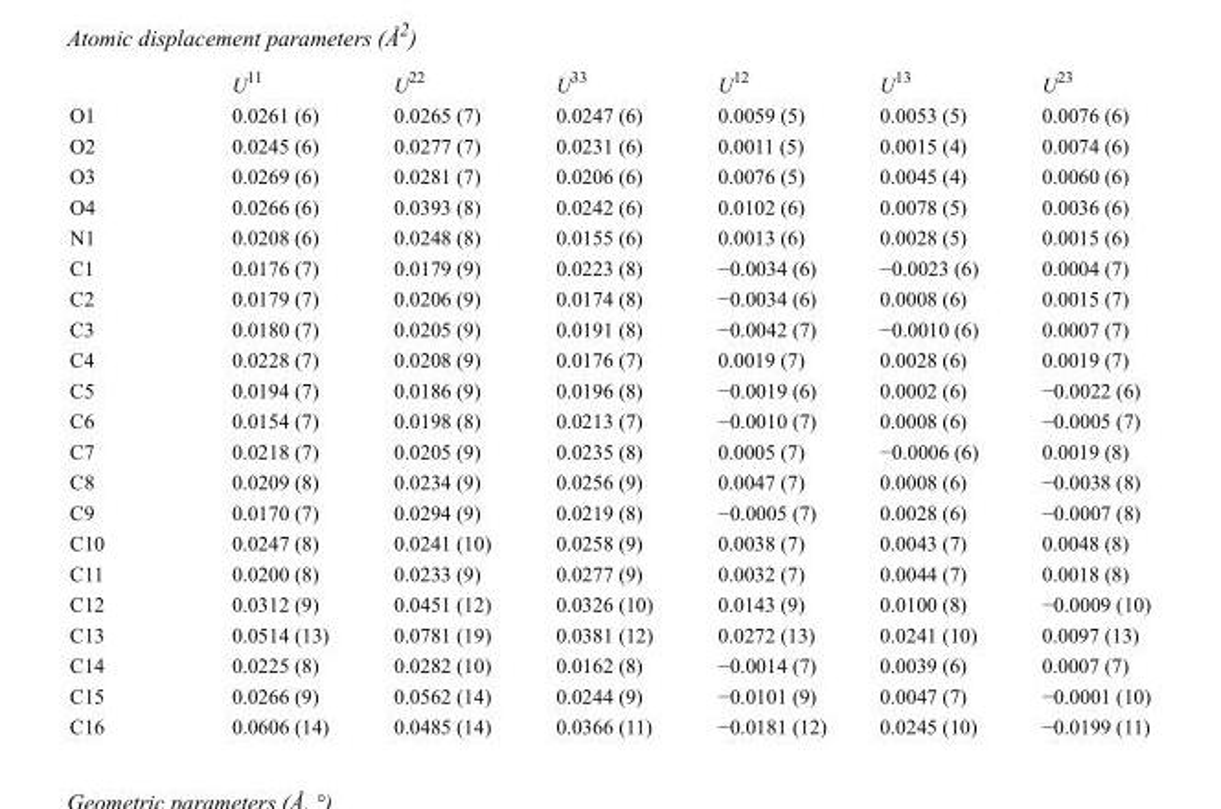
<table><thead><tr><td></td><td>U<sup>11</sup></td><td>U<sup>22</sup></td><td>U<sup>33</sup></td><td>U<sup>12</sup></td><td>U<sup>13</sup></td><td>U<sup>23</sup></td></tr></thead><tbody><tr><td>O1</td><td>0.0261 (6)</td><td>0.0265 (7)</td><td>0.0247 (6)</td><td>0.0059 (5)</td><td>0.0053 (5)</td><td>0.0076 (6)</td></tr><tr><td>O2</td><td>0.0245 (6)</td><td>0.0277 (7)</td><td>0.0231 (6)</td><td>0.0011 (5)</td><td>0.0015 (4)</td><td>0.0074 (6)</td></tr><tr><td>O3</td><td>0.0269 (6)</td><td>0.0281 (7)</td><td>0.0206 (6)</td><td>0.0076 (5)</td><td>0.0045 (4)</td><td>0.0060 (6)</td></tr><tr><td>O4</td><td>0.0266 (6)</td><td>0.0393 (8)</td><td>0.0242 (6)</td><td>0.0102 (6)</td><td>0.0078 (5)</td><td>0.0036 (6)</td></tr><tr><td>N1</td><td>0.0208 (6)</td><td>0.0248 (8)</td><td>0.0155 (6)</td><td>0.0013 (6)</td><td>0.0028 (5)</td><td>0.0015 (6)</td></tr><tr><td>C1</td><td>0.0176 (7)</td><td>0.0179 (9)</td><td>0.0223 (8)</td><td>−0.0034 (6)</td><td>−0.0023 (6)</td><td>0.0004 (7)</td></tr><tr><td>C2</td><td>0.0179 (7)</td><td>0.0206 (9)</td><td>0.0174 (8)</td><td>−0.0034 (6)</td><td>0.0008 (6)</td><td>0.0015 (7)</td></tr><tr><td>C3</td><td>0.0180 (7)</td><td>0.0205 (9)</td><td>0.0191 (8)</td><td>−0.0042 (7)</td><td>−0.0010 (6)</td><td>0.0007 (7)</td></tr><tr><td>C4</td><td>0.0228 (7)</td><td>0.0208 (9)</td><td>0.0176 (7)</td><td>0.0019 (7)</td><td>0.0028 (6)</td><td>0.0019 (7)</td></tr><tr><td>C5</td><td>0.0194 (7)</td><td>0.0186 (9)</td><td>0.0196 (8)</td><td>−0.0019 (6)</td><td>0.0002 (6)</td><td>−0.0022 (6)</td></tr><tr><td>C6</td><td>0.0154 (7)</td><td>0.0198 (8)</td><td>0.0213 (7)</td><td>−0.0010 (7)</td><td>0.0008 (6)</td><td>−0.0005 (7)</td></tr><tr><td>C7</td><td>0.0218 (7)</td><td>0.0205 (9)</td><td>0.0235 (8)</td><td>0.0005 (7)</td><td>−0.0006 (6)</td><td>0.0019 (8)</td></tr><tr><td>C8</td><td>0.0209 (8)</td><td>0.0234 (9)</td><td>0.0256 (9)</td><td>0.0047 (7)</td><td>0.0008 (6)</td><td>−0.0038 (8)</td></tr><tr><td>C9</td><td>0.0170 (7)</td><td>0.0294 (9)</td><td>0.0219 (8)</td><td>−0.0005 (7)</td><td>0.0028 (6)</td><td>−0.0007 (8)</td></tr><tr><td>C10</td><td>0.0247 (8)</td><td>0.0241 (10)</td><td>0.0258 (9)</td><td>0.0038 (7)</td><td>0.0043 (7)</td><td>0.0048 (8)</td></tr><tr><td>C11</td><td>0.0200 (8)</td><td>0.0233 (9)</td><td>0.0277 (9)</td><td>0.0032 (7)</td><td>0.0044 (7)</td><td>0.0018 (8)</td></tr><tr><td>C12</td><td>0.0312 (9)</td><td>0.0451 (12)</td><td>0.0326 (10)</td><td>0.0143 (9)</td><td>0.0100 (8)</td><td>−0.0009 (10)</td></tr><tr><td>C13</td><td>0.0514 (13)</td><td>0.0781 (19)</td><td>0.0381 (12)</td><td>0.0272 (13)</td><td>0.0241 (10)</td><td>0.0097 (13)</td></tr><tr><td>C14</td><td>0.0225 (8)</td><td>0.0282 (10)</td><td>0.0162 (8)</td><td>−0.0014 (7)</td><td>0.0039 (6)</td><td>0.0007 (7)</td></tr><tr><td>C15</td><td>0.0266 (9)</td><td>0.0562 (14)</td><td>0.0244 (9)</td><td>−0.0101 (9)</td><td>0.0047 (7)</td><td>−0.0001 (10)</td></tr><tr><td>C16</td><td>0.0606 (14)</td><td>0.0485 (14)</td><td>0.0366 (11)</td><td>−0.0181 (12)</td><td>0.0245 (10)</td><td>−0.0199 (11)</td></tr></tbody></table>